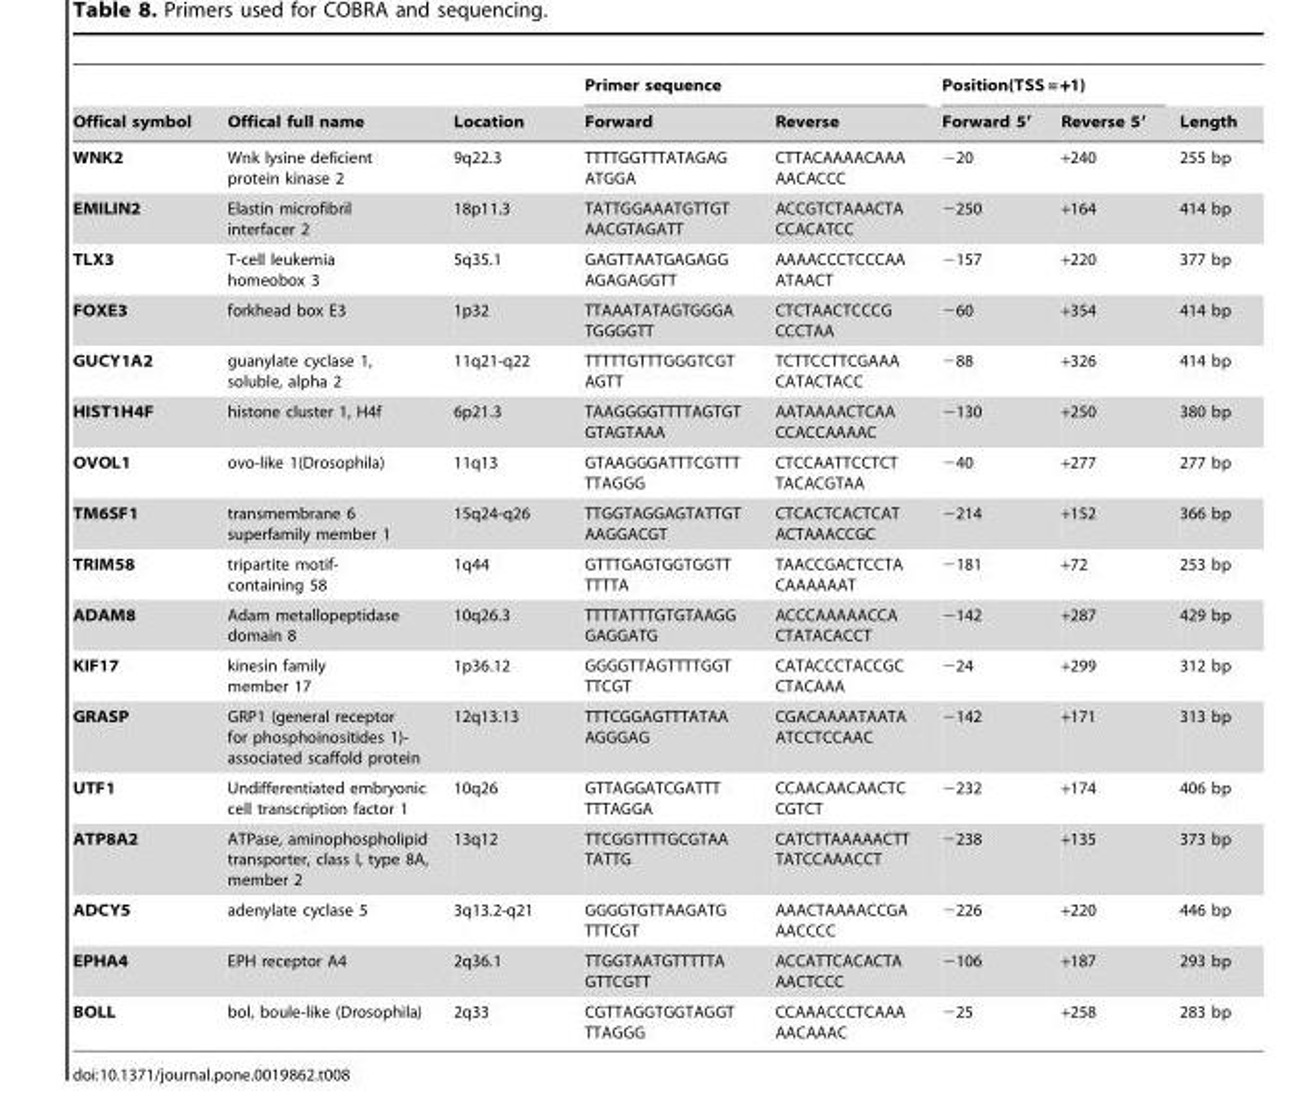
<table><thead><tr><td rowspan="2">Offical symbol</td><td rowspan="2">Offical full name</td><td rowspan="2">Location</td><td colspan="2">Primer sequence</td><td colspan="2">Position(TSS = +1)</td><td rowspan="2">Length</td></tr><tr><td>Forward</td><td>Reverse</td><td>Forward 5′</td><td>Reverse 5′</td></tr></thead><tbody><tr><td>WNK2</td><td>Wnk lysine deficient protein kinase 2</td><td>9q22.3</td><td>TTTTGGTTTATAGAG ATGGA</td><td>CTTACAAAACAAA AACACCC</td><td>−20</td><td>+240</td><td>255 bp</td></tr><tr><td>EMILIN2</td><td>Elastin microfibril interfacer 2</td><td>18p11.3</td><td>TATTGGAAATGTTGT AACGTAGATT</td><td>ACCGTCTAAACTA CCACATCC</td><td>−250</td><td>+164</td><td>414 bp</td></tr><tr><td>TLX3</td><td>T-cell leukemia homeobox 3</td><td>5q35.1</td><td>GAGTTAATGAGAGG AGAGAGGTT</td><td>AAAACCCTCCCAA ATAACT</td><td>−157</td><td>+220</td><td>377 bp</td></tr><tr><td>FOXE3</td><td>forkhead box E3</td><td>1p32</td><td>TTAAATATAGTGGGA TGGGGTT</td><td>CTCTAACTCCCG CCCTAA</td><td>−60</td><td>+354</td><td>414 bp</td></tr><tr><td>GUCY1A2</td><td>guanylate cyclase 1, soluble, alpha 2</td><td>11q21-q22</td><td>TTTTTGTTTGGGTCGT AGTT</td><td>TCTTCCTTCGAAA CATACTACC</td><td>−88</td><td>+326</td><td>414 bp</td></tr><tr><td>HIST1H4F</td><td>histone cluster 1, H4f</td><td>6p21.3</td><td>TAAGGGGTTTTAGTGT GTAGTAAA</td><td>AATAAAACTCAA CCACCAAAAC</td><td>−130</td><td>+250</td><td>380 bp</td></tr><tr><td>OVOL1</td><td>ovo-like 1(Drosophila)</td><td>11q13</td><td>GTAAGGGATTTCGTTT TTAGGG</td><td>CTCCAATTCCTCT TACACGTAA</td><td>−40</td><td>+277</td><td>277 bp</td></tr><tr><td>TM6SF1</td><td>transmembrane 6 superfamily member 1</td><td>15q24-q26</td><td>TTGGTAGGAGTATTGT AAGGACGT</td><td>CTCACTCACTCAT ACTAAACCGC</td><td>−214</td><td>+152</td><td>366 bp</td></tr><tr><td>TRIM58</td><td>tripartite motif- containing 58</td><td>1q44</td><td>GTTTGAGTGGTGGTT TTTTA</td><td>TAACCGACTCCTA CAAAAAAT</td><td>−181</td><td>+72</td><td>253 bp</td></tr><tr><td>ADAM8</td><td>Adam metallopeptidase domain 8</td><td>10q26.3</td><td>TTTTATTTGTGTAAGG GAGGATG</td><td>ACCCAAAAACCA CTATACACCT</td><td>−142</td><td>+287</td><td>429 bp</td></tr><tr><td>KIF17</td><td>kinesin family member 17</td><td>1p36.12</td><td>GGGGTTAGTTTTGGT TTCGT</td><td>CATACCCTACCGC CTACAAA</td><td>−24</td><td>+299</td><td>312 bp</td></tr><tr><td>GRASP</td><td>GRP1 (general receptor for phosphoinositides 1)- associated scaffold protein</td><td>12q13.13</td><td>TTTCGGAGTTTATAA AGGGAG</td><td>CGACAAAATAATA ATCCTCCAAC</td><td>−142</td><td>+171</td><td>313 bp</td></tr><tr><td>UTF1</td><td>Undifferentiated embryonic cell transcription factor 1</td><td>10q26</td><td>GTTAGGATCGATTT TTTAGGA</td><td>CCAACAACAACTC CGTCT</td><td>−232</td><td>+174</td><td>406 bp</td></tr><tr><td>ATP8A2</td><td>ATPase, aminophospholipid transporter, class I, type 8A, member 2</td><td>13q12</td><td>TTCGGTTTTGCGTAA TATTG</td><td>CATCTTAAAAACTT TATCCAAACCT</td><td>−238</td><td>+135</td><td>373 bp</td></tr><tr><td>ADCY5</td><td>adenylate cyclase 5</td><td>3q13.2-q21</td><td>GGGGTGTTAAGATG TTTCGT</td><td>AAACTAAAACCGA AACCCC</td><td>−226</td><td>+220</td><td>446 bp</td></tr><tr><td>EPHA4</td><td>EPH receptor A4</td><td>2q36.1</td><td>TTGGTAATGTTTTTA GTTCGTT</td><td>ACCATTCACACTA AACTCCC</td><td>−106</td><td>+187</td><td>293 bp</td></tr><tr><td>BOLL</td><td>bol, boule-like (Drosophila)</td><td>2q33</td><td>CGTTAGGTGGTAGGT TTAGGG</td><td>CCAAACCCTCAAA AACAAAC</td><td>−25</td><td>+258</td><td>283 bp</td></tr></tbody></table>